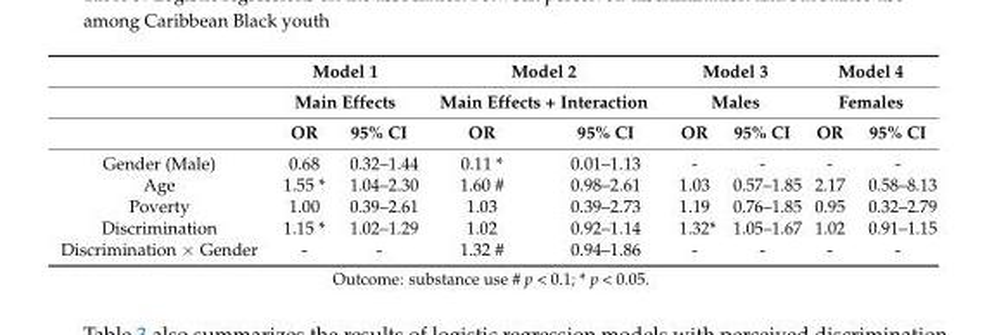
<table><thead><tr><td rowspan="3"></td><td rowspan="2" colspan="2">Model 1 Main Effects</td><td rowspan="2" colspan="2">Model 2 Main Effects + Interaction</td><td rowspan="2" colspan="2">Model 3 Males</td><td rowspan="2" colspan="2">Model 4 Females</td></tr><tr></tr><tr><td>OR</td><td>95% CI</td><td>OR</td><td>95% CI</td><td>OR</td><td>95% CI</td><td>OR</td><td>95% CI</td></tr></thead><tbody><tr><td>Gender (Male)</td><td>0.68</td><td>0.32–1.44</td><td>0.11 *</td><td>0.01–1.13</td><td>-</td><td>-</td><td>-</td><td>-</td></tr><tr><td>Age</td><td>1.55 *</td><td>1.04–2.30</td><td>1.60 #</td><td>0.98–2.61</td><td>1.03</td><td>0.57–1.85</td><td>2.17</td><td>0.58–8.13</td></tr><tr><td>Poverty</td><td>1.00</td><td>0.39–2.61</td><td>1.03</td><td>0.39–2.73</td><td>1.19</td><td>0.76–1.85</td><td>0.95</td><td>0.32–2.79</td></tr><tr><td>Discrimination</td><td>1.15 *</td><td>1.02–1.29</td><td>1.02</td><td>0.92–1.14</td><td>1.32*</td><td>1.05–1.67</td><td>1.02</td><td>0.91–1.15</td></tr><tr><td>Discrimination × Gender</td><td>-</td><td>-</td><td>1.32 #</td><td>0.94–1.86</td><td>-</td><td>-</td><td>-</td><td>-</td></tr></tbody></table>